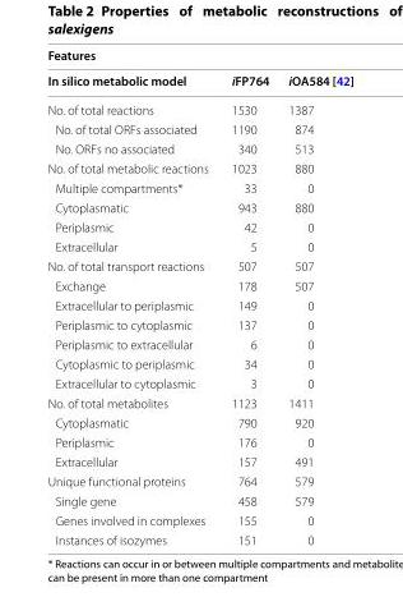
<table><thead><tr><td colspan="3">Features</td></tr><tr><td>In silico metabolic model</td><td>iFP764</td><td>iOA584 [42]</td></tr></thead><tbody><tr><td>No. of total reactions</td><td>1530</td><td>1387</td></tr><tr><td>No. of total ORFs associated</td><td>1190</td><td>874</td></tr><tr><td>No. ORFs no associated</td><td>340</td><td>513</td></tr><tr><td>No. of total metabolic reactions</td><td>1023</td><td>880</td></tr><tr><td>Multiple compartments*</td><td>33</td><td>0</td></tr><tr><td>Cytoplasmatic</td><td>943</td><td>880</td></tr><tr><td>Periplasmic</td><td>42</td><td>0</td></tr><tr><td>Extracellular</td><td>5</td><td>0</td></tr><tr><td>No. of total transport reactions</td><td>507</td><td>507</td></tr><tr><td>Exchange</td><td>178</td><td>507</td></tr><tr><td>Extracellular to periplasmic</td><td>149</td><td>0</td></tr><tr><td>Periplasmic to cytoplasmic</td><td>137</td><td>0</td></tr><tr><td>Periplasmic to extracellular</td><td>6</td><td>0</td></tr><tr><td>Cytoplasmic to periplasmic</td><td>34</td><td>0</td></tr><tr><td>Extracellular to cytoplasmic</td><td>3</td><td>0</td></tr><tr><td>No. of total metabolites</td><td>1123</td><td>1411</td></tr><tr><td>Cytoplasmatic</td><td>790</td><td>920</td></tr><tr><td>Periplasmic</td><td>176</td><td>0</td></tr><tr><td>Extracellular</td><td>157</td><td>491</td></tr><tr><td>Unique functional proteins</td><td>764</td><td>579</td></tr><tr><td>Single gene</td><td>458</td><td>579</td></tr><tr><td>Genes involved in complexes</td><td>155</td><td>0</td></tr><tr><td>Instances of isozymes</td><td>151</td><td>0</td></tr></tbody></table>